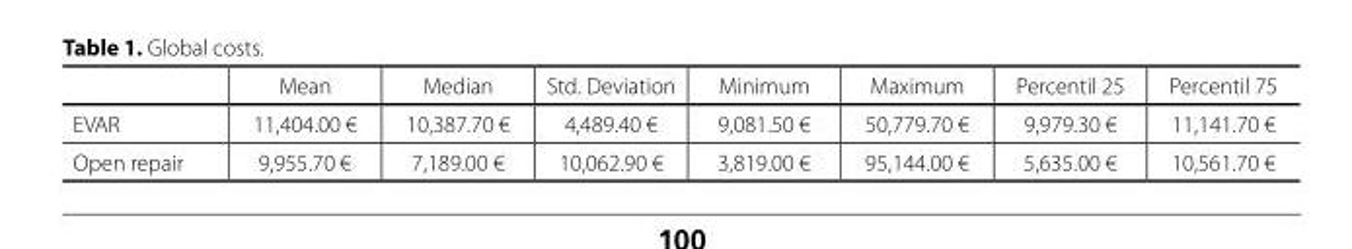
<table><thead><tr><td></td><td>Mean</td><td>Median</td><td>Std. Deviation</td><td>Minimum</td><td>Maximum</td><td>Percentil 25</td><td>Percentil 75</td></tr></thead><tbody><tr><td>EVAR</td><td>11,404.00 €</td><td>10,387.70 €</td><td>4,489.40 €</td><td>9,081.50 €</td><td>50,779.70 €</td><td>9,979.30 €</td><td>11,141.70 €</td></tr><tr><td>Open repair</td><td>9,955.70 €</td><td>7,189.00 €</td><td>10,062.90 €</td><td>3,819.00 €</td><td>95,144.00 €</td><td>5,635.00 €</td><td>10,561.70 €</td></tr></tbody></table>